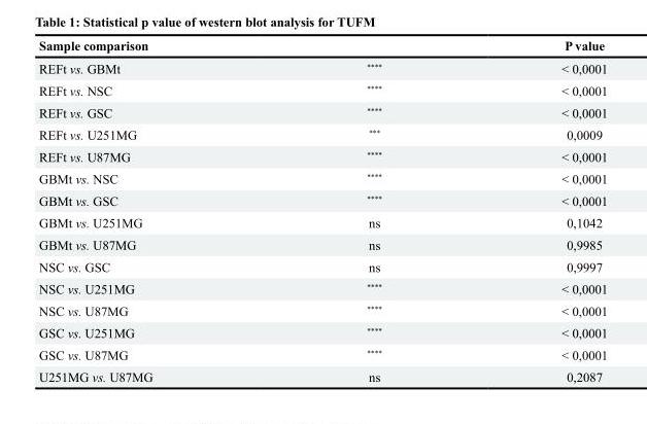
<table><thead><tr><td>Sample comparison</td><td></td><td>P value</td></tr></thead><tbody><tr><td>REFt vs. GBMt</td><td>****</td><td>&lt; 0,0001</td></tr><tr><td>REFt vs. NSC</td><td>****</td><td>&lt; 0,0001</td></tr><tr><td>REFt vs. GSC</td><td>****</td><td>&lt; 0,0001</td></tr><tr><td>REFt vs. U251MG</td><td>***</td><td>0,0009</td></tr><tr><td>REFt vs. U87MG</td><td>****</td><td>&lt; 0,0001</td></tr><tr><td>GBMt vs. NSC</td><td>****</td><td>&lt; 0,0001</td></tr><tr><td>GBMt vs. GSC</td><td>****</td><td>&lt; 0,0001</td></tr><tr><td>GBMt vs. U251MG</td><td>ns</td><td>0,1042</td></tr><tr><td>GBMt vs. U87MG</td><td>ns</td><td>0,9985</td></tr><tr><td>NSC vs. GSC</td><td>ns</td><td>0,9997</td></tr><tr><td>NSC vs. U251MG</td><td>****</td><td>&lt; 0,0001</td></tr><tr><td>NSC vs. U87MG</td><td>****</td><td>&lt; 0,0001</td></tr><tr><td>GSC vs. U251MG</td><td>****</td><td>&lt; 0,0001</td></tr><tr><td>GSC vs. U87MG</td><td>****</td><td>&lt; 0,0001</td></tr><tr><td>U251MG vs. U87MG</td><td>ns</td><td>0,2087</td></tr></tbody></table>